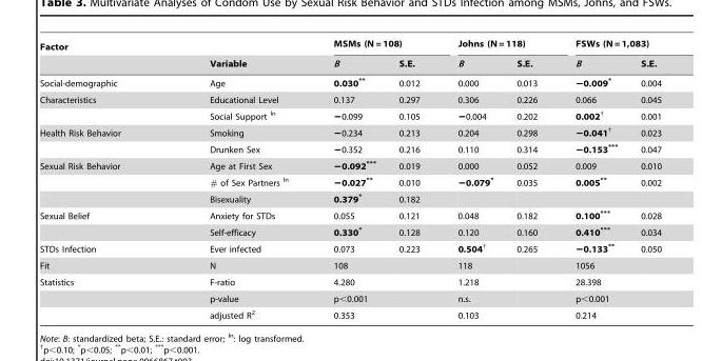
<table><thead><tr><td rowspan="2">Factor</td><td rowspan="2">Variable</td><td colspan="2">MSMs (N = 108)</td><td colspan="2">Johns (N = 118)</td><td colspan="2">FSWs (N = 1,083)</td></tr><tr><td>B</td><td>S.E.</td><td>B</td><td>S.E.</td><td>B</td><td>S.E.</td></tr></thead><tbody><tr><td>Social-demographic</td><td>Age</td><td>0.030**</td><td>0.012</td><td>0.000</td><td>0.013</td><td>−0.009*</td><td>0.004</td></tr><tr><td rowspan="2">Characteristics</td><td>Educational Level</td><td>0.137</td><td>0.297</td><td>0.306</td><td>0.226</td><td>0.066</td><td>0.045</td></tr><tr><td>Social Support <sup>ln</sup></td><td>−0.099</td><td>0.105</td><td>−0.004</td><td>0.202</td><td>0.002†</td><td>0.001</td></tr><tr><td rowspan="2">Health Risk Behavior</td><td>Smoking</td><td>−0.234</td><td>0.213</td><td>0.204</td><td>0.298</td><td>−0.041†</td><td>0.023</td></tr><tr><td>Drunken Sex</td><td>−0.352</td><td>0.216</td><td>0.110</td><td>0.314</td><td>−0.153***</td><td>0.047</td></tr><tr><td rowspan="3">Sexual Risk Behavior</td><td>Age at First Sex</td><td>−0.092***</td><td>0.019</td><td>0.000</td><td>0.052</td><td>0.009</td><td>0.010</td></tr><tr><td># of Sex Partners <sup>ln</sup></td><td>−0.027**</td><td>0.010</td><td>−0.079*</td><td>0.035</td><td>0.005**</td><td>0.002</td></tr><tr><td>Bisexuality</td><td>0.379*</td><td>0.182</td><td></td><td></td><td></td><td></td></tr><tr><td rowspan="2">Sexual Belief</td><td>Anxiety for STDs</td><td>0.055</td><td>0.121</td><td>0.048</td><td>0.182</td><td>0.100***</td><td>0.028</td></tr><tr><td>Self-efficacy</td><td>0.330*</td><td>0.128</td><td>0.120</td><td>0.160</td><td>0.410***</td><td>0.034</td></tr><tr><td>STDs Infection</td><td>Ever infected</td><td>0.073</td><td>0.223</td><td>0.504†</td><td>0.265</td><td>−0.133**</td><td>0.050</td></tr><tr><td>Fit</td><td>N</td><td>108</td><td></td><td>118</td><td></td><td>1056</td><td></td></tr><tr><td rowspan="3">Statistics</td><td>F-ratio</td><td>4.280</td><td></td><td>1.218</td><td></td><td>28.398</td><td></td></tr><tr><td>p-value</td><td>p&lt;0.001</td><td></td><td>n.s.</td><td></td><td>p&lt;0.001</td><td></td></tr><tr><td>adjusted R<sup>2</sup></td><td>0.353</td><td></td><td>0.103</td><td></td><td>0.214</td><td></td></tr></tbody></table>